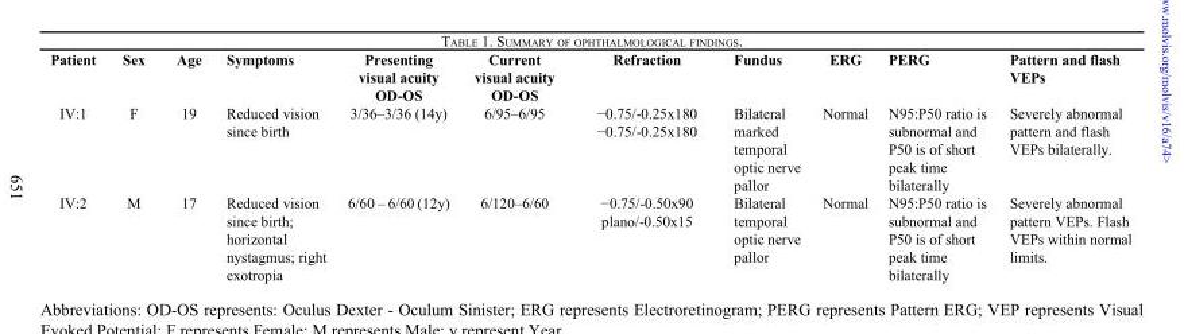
<table><thead><tr><td>Patient</td><td>Sex</td><td>Age</td><td>Symptoms</td><td>Presenting visual acuity OD-OS</td><td>Current visual acuity OD-OS</td><td>Refraction</td><td>Fundus</td><td>ERG</td><td>PERG</td><td>Pattern and flash VEPs</td></tr></thead><tbody><tr><td>IV:1</td><td>F</td><td>19</td><td>Reduced vision since birth</td><td>3/36–3/36 (14y)</td><td>6/95–6/95</td><td>−0.75/-0.25x180 −0.75/-0.25x180</td><td>Bilateral marked temporal optic nerve pallor</td><td>Normal</td><td>N95:P50 ratio is subnormal and P50 is of short peak time bilaterally</td><td>Severely abnormal pattern and flash VEPs bilaterally.</td></tr><tr><td>IV:2</td><td>M</td><td>17</td><td>Reduced vision since birth; horizontal nystagmus; right exotropia</td><td>6/60 – 6/60 (12y)</td><td>6/120–6/60</td><td>−0.75/-0.50x90 plano/-0.50x15</td><td>Bilateral temporal optic nerve pallor</td><td>Normal</td><td>N95:P50 ratio is subnormal and P50 is of short peak time bilaterally</td><td>Severely abnormal pattern VEPs. Flash VEPs within normal limits.</td></tr></tbody></table>